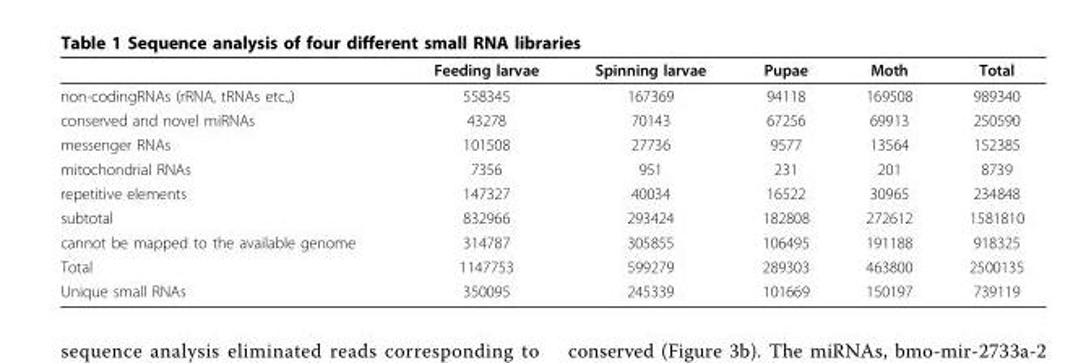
<table><thead><tr><td></td><td>Feeding larvae</td><td>Spinning larvae</td><td>Pupae</td><td>Moth</td><td>Total</td></tr></thead><tbody><tr><td>non-codingRNAs (rRNA, tRNAs etc.,)</td><td>558345</td><td>167369</td><td>94118</td><td>169508</td><td>989340</td></tr><tr><td>conserved and novel miRNAs</td><td>43278</td><td>70143</td><td>67256</td><td>69913</td><td>250590</td></tr><tr><td>messenger RNAs</td><td>101508</td><td>27736</td><td>9577</td><td>13564</td><td>152385</td></tr><tr><td>mitochondrial RNAs</td><td>7356</td><td>951</td><td>231</td><td>201</td><td>8739</td></tr><tr><td>repetitive elements</td><td>147327</td><td>40034</td><td>16522</td><td>30965</td><td>234848</td></tr><tr><td>subtotal</td><td>832966</td><td>293424</td><td>182808</td><td>272612</td><td>1581810</td></tr><tr><td>cannot be mapped to the available genome</td><td>314787</td><td>305855</td><td>106495</td><td>191188</td><td>918325</td></tr><tr><td>Total</td><td>1147753</td><td>599279</td><td>289303</td><td>463800</td><td>2500135</td></tr><tr><td>Unique small RNAs</td><td>350095</td><td>245339</td><td>101669</td><td>150197</td><td>739119</td></tr></tbody></table>